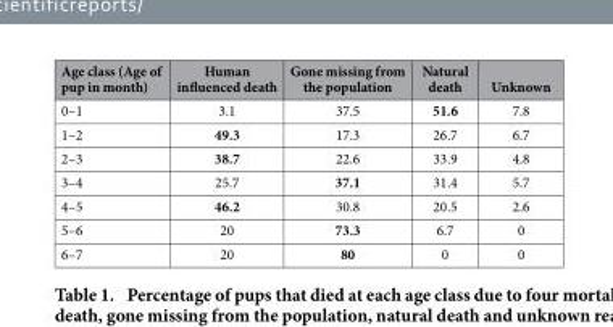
<table><thead><tr><td>Age class (Age of pup in month)</td><td>Human influenced death</td><td>Gone missing from the population</td><td>Natural death</td><td>Unknown</td></tr></thead><tbody><tr><td>0–1</td><td>3.1</td><td>37.5</td><td>51.6</td><td>7.8</td></tr><tr><td>1–2</td><td>49.3</td><td>17.3</td><td>26.7</td><td>6.7</td></tr><tr><td>2–3</td><td>38.7</td><td>22.6</td><td>33.9</td><td>4.8</td></tr><tr><td>3–4</td><td>25.7</td><td>37.1</td><td>31.4</td><td>5.7</td></tr><tr><td>4–5</td><td>46.2</td><td>30.8</td><td>20.5</td><td>2.6</td></tr><tr><td>5–6</td><td>20</td><td>73.3</td><td>6.7</td><td>0</td></tr><tr><td>6–7</td><td>20</td><td>80</td><td>0</td><td>0</td></tr></tbody></table>